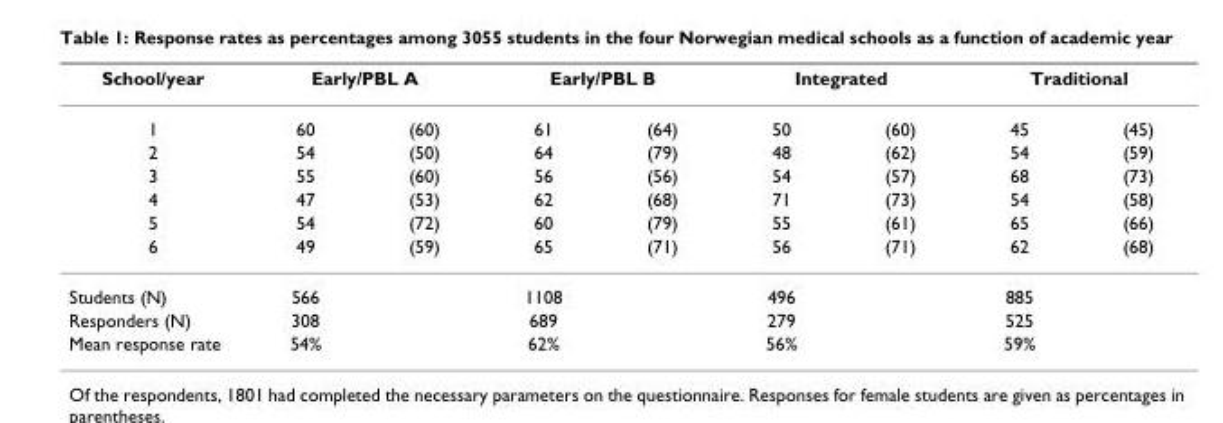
<table><thead><tr><td rowspan="2">School/year 1</td><td colspan="2">Early/PBL A</td><td colspan="2">Early/PBL B</td><td colspan="2">Integrated</td><td colspan="2">Traditional</td></tr><tr><td>60</td><td>(60)</td><td>61</td><td>(64)</td><td>50</td><td>(60)</td><td>45</td><td>(45)</td></tr></thead><tbody><tr><td>2</td><td>54</td><td>(50)</td><td>64</td><td>(79)</td><td>48</td><td>(62)</td><td>54</td><td>(59)</td></tr><tr><td>3</td><td>55</td><td>(60)</td><td>56</td><td>(56)</td><td>54</td><td>(57)</td><td>68</td><td>(73)</td></tr><tr><td>4</td><td>47</td><td>(53)</td><td>62</td><td>(68)</td><td>71</td><td>(73)</td><td>54</td><td>(58)</td></tr><tr><td>5</td><td>54</td><td>(72)</td><td>60</td><td>(79)</td><td>55</td><td>(61)</td><td>65</td><td>(66)</td></tr><tr><td>6</td><td>49</td><td>(59)</td><td>65</td><td>(71)</td><td>56</td><td>(71)</td><td>62</td><td>(68)</td></tr><tr><td>Students (N)</td><td>566</td><td></td><td>1108</td><td></td><td>496</td><td></td><td>885</td><td></td></tr><tr><td>Responders (N)</td><td>308</td><td></td><td>689</td><td></td><td>279</td><td></td><td>525</td><td></td></tr><tr><td>Mean response rate</td><td>54%</td><td></td><td>62%</td><td></td><td>56%</td><td></td><td>59%</td><td></td></tr></tbody></table>